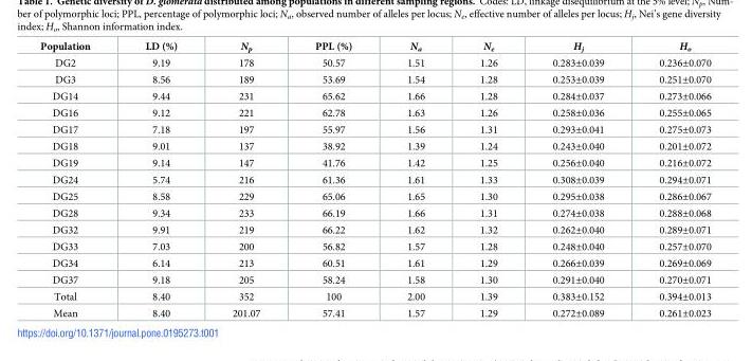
<table><thead><tr><td>Population</td><td>LD (%)</td><td>N<sub>p</sub></td><td>PPL (%)</td><td>N<sub>a</sub></td><td>N<sub>e</sub></td><td>H<sub>j</sub></td><td>H<sub>o</sub></td></tr></thead><tbody><tr><td>DG2</td><td>9.19</td><td>178</td><td>50.57</td><td>1.51</td><td>1.26</td><td>0.283±0.039</td><td>0.236±0.070</td></tr><tr><td>DG3</td><td>8.56</td><td>189</td><td>53.69</td><td>1.54</td><td>1.28</td><td>0.253±0.039</td><td>0.251±0.070</td></tr><tr><td>DG14</td><td>9.44</td><td>231</td><td>65.62</td><td>1.66</td><td>1.28</td><td>0.284±0.037</td><td>0.273±0.066</td></tr><tr><td>DG16</td><td>9.12</td><td>221</td><td>62.78</td><td>1.63</td><td>1.26</td><td>0.258±0.036</td><td>0.255±0.065</td></tr><tr><td>DG17</td><td>7.18</td><td>197</td><td>55.97</td><td>1.56</td><td>1.31</td><td>0.293±0.041</td><td>0.275±0.073</td></tr><tr><td>DG18</td><td>9.01</td><td>137</td><td>38.92</td><td>1.39</td><td>1.24</td><td>0.243±0.040</td><td>0.201±0.072</td></tr><tr><td>DG19</td><td>9.14</td><td>147</td><td>41.76</td><td>1.42</td><td>1.25</td><td>0.256±0.040</td><td>0.216±0.072</td></tr><tr><td>DG24</td><td>5.74</td><td>216</td><td>61.36</td><td>1.61</td><td>1.33</td><td>0.308±0.039</td><td>0.294±0.071</td></tr><tr><td>DG25</td><td>8.58</td><td>229</td><td>65.06</td><td>1.65</td><td>1.30</td><td>0.295±0.038</td><td>0.286±0.067</td></tr><tr><td>DG28</td><td>9.34</td><td>233</td><td>66.19</td><td>1.66</td><td>1.31</td><td>0.274±0.038</td><td>0.288±0.068</td></tr><tr><td>DG32</td><td>9.91</td><td>219</td><td>66.22</td><td>1.62</td><td>1.32</td><td>0.262±0.040</td><td>0.289±0.071</td></tr><tr><td>DG33</td><td>7.03</td><td>200</td><td>56.82</td><td>1.57</td><td>1.28</td><td>0.248±0.040</td><td>0.257±0.070</td></tr><tr><td>DG34</td><td>6.14</td><td>213</td><td>60.51</td><td>1.61</td><td>1.29</td><td>0.266±0.039</td><td>0.269±0.069</td></tr><tr><td>DG37</td><td>9.18</td><td>205</td><td>58.24</td><td>1.58</td><td>1.30</td><td>0.291±0.040</td><td>0.270±0.071</td></tr><tr><td>Total</td><td>8.40</td><td>352</td><td>100</td><td>2.00</td><td>1.39</td><td>0.383±0.152</td><td>0.394±0.013</td></tr><tr><td>Mean</td><td>8.40</td><td>201.07</td><td>57.41</td><td>1.57</td><td>1.29</td><td>0.272±0.089</td><td>0.261±0.023</td></tr></tbody></table>